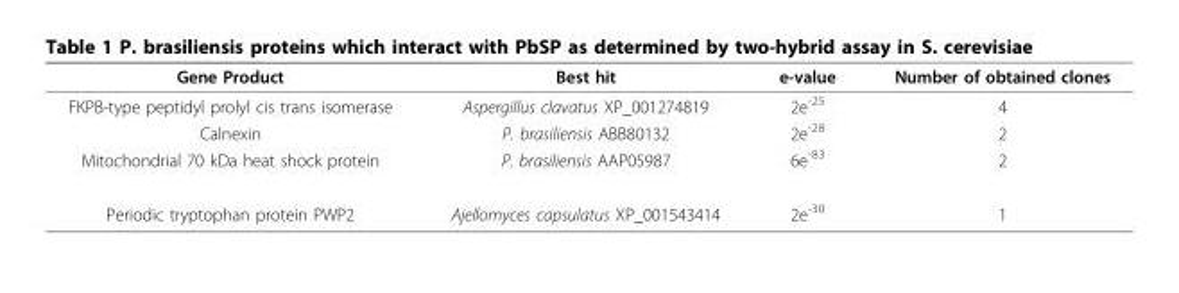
<table><thead><tr><td>Gene Product</td><td>Best hit</td><td>e-value</td><td>Number of obtained clones</td></tr></thead><tbody><tr><td>FKPB-type peptidyl prolyl cis trans isomerase</td><td>Aspergillus clavatus XP_001274819</td><td>2e<sup>-25</sup></td><td>4</td></tr><tr><td>Calnexin</td><td>P. brasiliensis ABB80132</td><td>2e<sup>-28</sup></td><td>2</td></tr><tr><td>Mitochondrial 70 kDa heat shock protein</td><td>P. brasiliensis AAP05987</td><td>6e<sup>-83</sup></td><td>2</td></tr><tr><td>Periodic tryptophan protein PWP2</td><td>Ajellomyces capsulatus XP_001543414</td><td>2e<sup>-30</sup></td><td>1</td></tr></tbody></table>